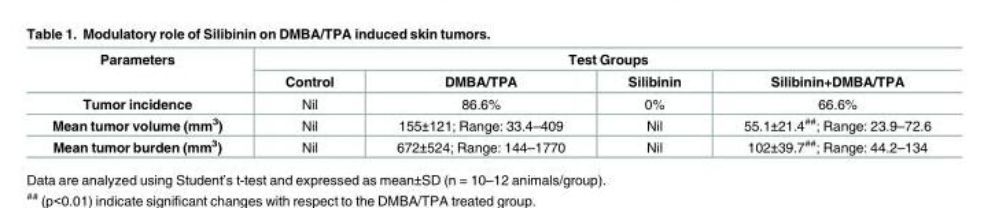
<table><thead><tr><td rowspan="2">Parameters</td><td colspan="4">Test Groups</td></tr><tr><td>Control</td><td>DMBA/TPA</td><td>Silibinin</td><td>Silibinin+DMBA/TPA</td></tr></thead><tbody><tr><td>Tumor incidence</td><td>Nil</td><td>86.6%</td><td>0%</td><td>66.6%</td></tr><tr><td>Mean tumor volume (mm<sup>3</sup>)</td><td>Nil</td><td>155±121; Range: 33.4–409</td><td>Nil</td><td>55.1±21.4<sup>##</sup>; Range: 23.9–72.6</td></tr><tr><td>Mean tumor burden (mm<sup>3</sup>)</td><td>Nil</td><td>672±524; Range: 144–1770</td><td>Nil</td><td>102±39.7<sup>##</sup>; Range: 44.2–134</td></tr></tbody></table>